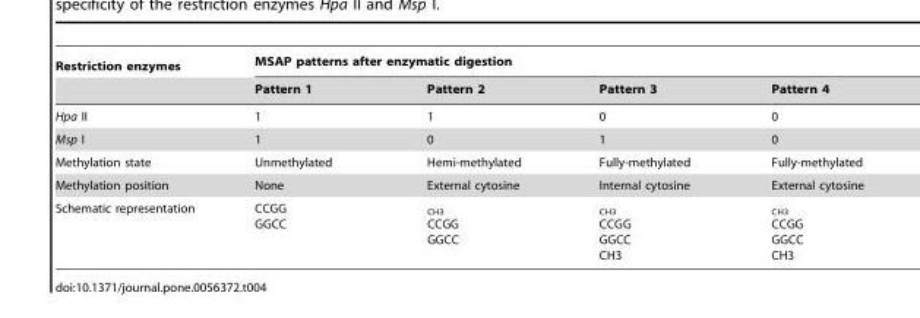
<table><thead><tr><td rowspan="2">Restriction enzymes</td><td colspan="4">MSAP patterns after enzymatic digestion</td></tr><tr><td>Pattern 1</td><td>Pattern 2</td><td>Pattern 3</td><td>Pattern 4</td></tr></thead><tbody><tr><td>Hpa II</td><td>1</td><td>1</td><td>0</td><td>0</td></tr><tr><td>Msp I</td><td>1</td><td>0</td><td>1</td><td>0</td></tr><tr><td>Methylation state</td><td>Unmethylated</td><td>Hemi-methylated</td><td>Fully-methylated</td><td>Fully-methylated</td></tr><tr><td>Methylation position</td><td>None</td><td>External cytosine</td><td>Internal cytosine</td><td>External cytosine</td></tr><tr><td>Schematic representation</td><td>CCGG GGCC</td><td><sub>CH3</sub> CCGG GGCC</td><td><sub>CH3</sub> CCGG GGCC CH3</td><td><sub>CH3</sub> CCGG GGCC CH3</td></tr></tbody></table>